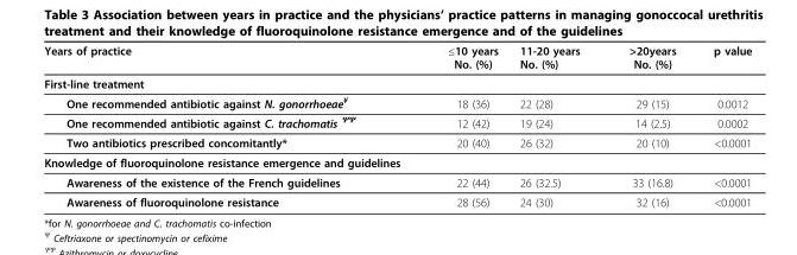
<table><thead><tr><td>Years of practice</td><td>≤10 years No. (%)</td><td>11-20 years No. (%)</td><td>&gt;20years No. (%)</td><td>p value</td></tr></thead><tbody><tr><td colspan="5">First-line treatment</td></tr><tr><td>One recommended antibiotic against N. gonorrhoeae<sup>¥</sup></td><td>18 (36)</td><td>22 (28)</td><td>29 (15)</td><td>0.0012</td></tr><tr><td>One recommended antibiotic against C. trachomatis <sup>ΨΨ</sup></td><td>12 (42)</td><td>19 (24)</td><td>14 (2.5)</td><td>0.0002</td></tr><tr><td>Two antibiotics prescribed concomitantly*</td><td>20 (40)</td><td>26 (32)</td><td>20 (10)</td><td>&lt;0.0001</td></tr><tr><td colspan="5">Knowledge of fluoroquinolone resistance emergence and guidelines</td></tr><tr><td>Awareness of the existence of the French guidelines</td><td>22 (44)</td><td>26 (32.5)</td><td>33 (16.8)</td><td>&lt;0.0001</td></tr><tr><td>Awareness of fluoroquinolone resistance</td><td>28 (56)</td><td>24 (30)</td><td>32 (16)</td><td>&lt;0.0001</td></tr></tbody></table>